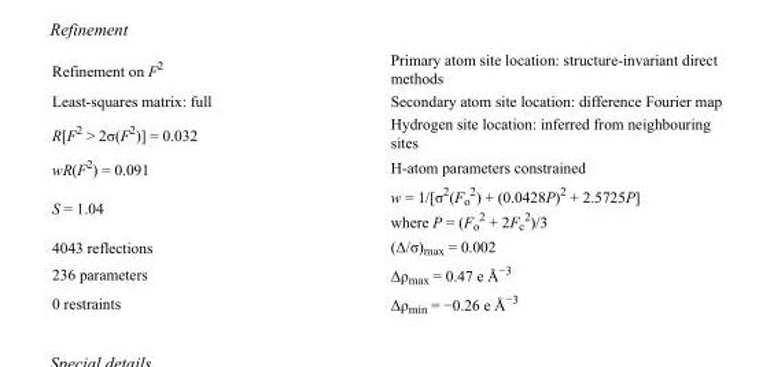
<table><tbody><tr><td>Refinement on F<sup>2</sup></td><td>Primary atom site location: structure-invariant direct methods</td></tr><tr><td>Least-squares matrix: full</td><td>Secondary atom site location: difference Fourier map</td></tr><tr><td>R[F<sup>2</sup> &gt; 2σ(F<sup>2</sup>)] = 0.032</td><td>Hydrogen site location: inferred from neighbouring sites</td></tr><tr><td>wR(F<sup>2</sup>) = 0.091</td><td>H-atom parameters constrained</td></tr><tr><td>S = 1.04</td><td>w = 1/[σ<sup>2</sup>(F<sub>o</sub> <sup>2</sup>) + (0.0428P)<sup>2</sup> + 2.5725P] where P = (F<sub>o</sub> <sup>2</sup> + 2F<sub>c</sub> <sup>2</sup>)/3</td></tr><tr><td>4043 reflections</td><td>(Δ/σ)<sub>max</sub> = 0.002</td></tr><tr><td>236 parameters</td><td>Δρ<sub>max</sub> = 0.47 e Å<sup>−3</sup></td></tr><tr><td>0 restraints</td><td>Δρ<sub>min</sub> = −0.26 e Å<sup>−3</sup></td></tr></tbody></table>